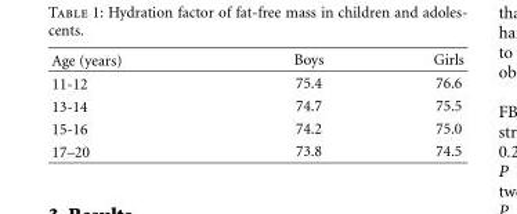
<table><thead><tr><td>Age (years)</td><td>Boys</td><td>Girls</td></tr></thead><tbody><tr><td>11-12</td><td>75.4</td><td>76.6</td></tr><tr><td>13-14</td><td>74.7</td><td>75.5</td></tr><tr><td>15-16</td><td>74.2</td><td>75.0</td></tr><tr><td>17–20</td><td>73.8</td><td>74.5</td></tr></tbody></table>